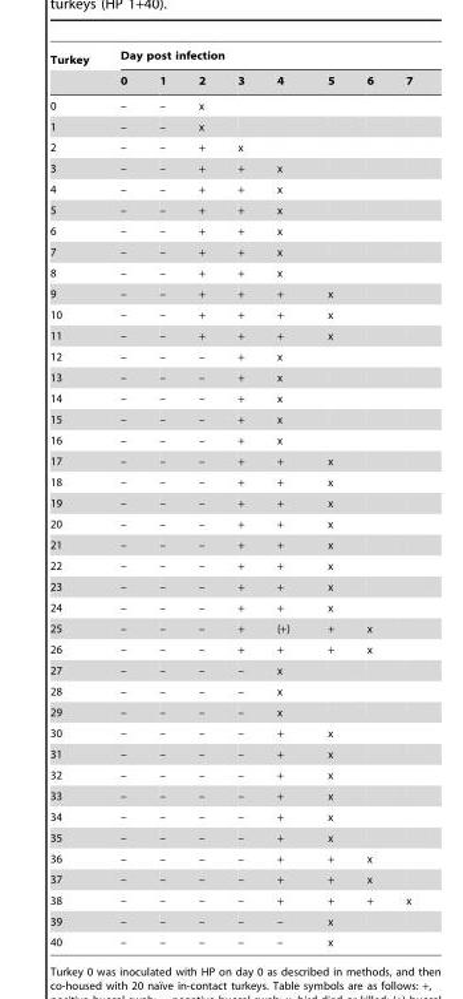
<table><thead><tr><td rowspan="2">Turkey</td><td colspan="8">Day post infection</td></tr><tr><td>0</td><td>1</td><td>2</td><td>3</td><td>4</td><td>5</td><td>6</td><td>7</td></tr></thead><tbody><tr><td>0</td><td>–</td><td>–</td><td>x</td><td></td><td></td><td></td><td></td><td></td></tr><tr><td>1</td><td>–</td><td>–</td><td>x</td><td></td><td></td><td></td><td></td><td></td></tr><tr><td>2</td><td>–</td><td>–</td><td>+</td><td>x</td><td></td><td></td><td></td><td></td></tr><tr><td>3</td><td>–</td><td>–</td><td>+</td><td>+</td><td>x</td><td></td><td></td><td></td></tr><tr><td>4</td><td>–</td><td>–</td><td>+</td><td>+</td><td>x</td><td></td><td></td><td></td></tr><tr><td>5</td><td>–</td><td>–</td><td>+</td><td>+</td><td>x</td><td></td><td></td><td></td></tr><tr><td>6</td><td>–</td><td>–</td><td>+</td><td>+</td><td>x</td><td></td><td></td><td></td></tr><tr><td>7</td><td>–</td><td>–</td><td>+</td><td>+</td><td>x</td><td></td><td></td><td></td></tr><tr><td>8</td><td>–</td><td>–</td><td>+</td><td>+</td><td>x</td><td></td><td></td><td></td></tr><tr><td>9</td><td>–</td><td>–</td><td>+</td><td>+</td><td>+</td><td>x</td><td></td><td></td></tr><tr><td>10</td><td>–</td><td>–</td><td>+</td><td>+</td><td>+</td><td>x</td><td></td><td></td></tr><tr><td>11</td><td>–</td><td>–</td><td>+</td><td>+</td><td>+</td><td>x</td><td></td><td></td></tr><tr><td>12</td><td>–</td><td>–</td><td>–</td><td>+</td><td>x</td><td></td><td></td><td></td></tr><tr><td>13</td><td>–</td><td>–</td><td>–</td><td>+</td><td>x</td><td></td><td></td><td></td></tr><tr><td>14</td><td>–</td><td>–</td><td>–</td><td>+</td><td>x</td><td></td><td></td><td></td></tr><tr><td>15</td><td>–</td><td>–</td><td>–</td><td>+</td><td>x</td><td></td><td></td><td></td></tr><tr><td>16</td><td>–</td><td>–</td><td>–</td><td>+</td><td>x</td><td></td><td></td><td></td></tr><tr><td>17</td><td>–</td><td>–</td><td>–</td><td>+</td><td>+</td><td>x</td><td></td><td></td></tr><tr><td>18</td><td>–</td><td>–</td><td>–</td><td>+</td><td>+</td><td>x</td><td></td><td></td></tr><tr><td>19</td><td>–</td><td>–</td><td>–</td><td>+</td><td>+</td><td>x</td><td></td><td></td></tr><tr><td>20</td><td>–</td><td>–</td><td>–</td><td>+</td><td>+</td><td>x</td><td></td><td></td></tr><tr><td>21</td><td>–</td><td>–</td><td>–</td><td>+</td><td>+</td><td>x</td><td></td><td></td></tr><tr><td>22</td><td>–</td><td>–</td><td>–</td><td>+</td><td>+</td><td>x</td><td></td><td></td></tr><tr><td>23</td><td>–</td><td>–</td><td>–</td><td>+</td><td>+</td><td>x</td><td></td><td></td></tr><tr><td>24</td><td>–</td><td>–</td><td>–</td><td>+</td><td>+</td><td>x</td><td></td><td></td></tr><tr><td>25</td><td>–</td><td>–</td><td>–</td><td>+</td><td>(+)</td><td>+</td><td>x</td><td></td></tr><tr><td>26</td><td>–</td><td>–</td><td>–</td><td>+</td><td>+</td><td>+</td><td>x</td><td></td></tr><tr><td>27</td><td>–</td><td>–</td><td>–</td><td>–</td><td>x</td><td></td><td></td><td></td></tr><tr><td>28</td><td>–</td><td>–</td><td>–</td><td>–</td><td>x</td><td></td><td></td><td></td></tr><tr><td>29</td><td>–</td><td>–</td><td>–</td><td>–</td><td>x</td><td></td><td></td><td></td></tr><tr><td>30</td><td>–</td><td>–</td><td>–</td><td>–</td><td>+</td><td>x</td><td></td><td></td></tr><tr><td>31</td><td>–</td><td>–</td><td>–</td><td>–</td><td>+</td><td>x</td><td></td><td></td></tr><tr><td>32</td><td>–</td><td>–</td><td>–</td><td>–</td><td>+</td><td>x</td><td></td><td></td></tr><tr><td>33</td><td>–</td><td>–</td><td>–</td><td>–</td><td>+</td><td>x</td><td></td><td></td></tr><tr><td>34</td><td>–</td><td>–</td><td>–</td><td>–</td><td>+</td><td>x</td><td></td><td></td></tr><tr><td>35</td><td>–</td><td>–</td><td>–</td><td>–</td><td>+</td><td>x</td><td></td><td></td></tr><tr><td>36</td><td>–</td><td>–</td><td>–</td><td>–</td><td>+</td><td>+</td><td>x</td><td></td></tr><tr><td>37</td><td>–</td><td>–</td><td>–</td><td>–</td><td>+</td><td>+</td><td>x</td><td></td></tr><tr><td>38</td><td>–</td><td>–</td><td>–</td><td>–</td><td>+</td><td>+</td><td>+</td><td>x</td></tr><tr><td>39</td><td>–</td><td>–</td><td>–</td><td>–</td><td>–</td><td>x</td><td></td><td></td></tr><tr><td>40</td><td>–</td><td>–</td><td>–</td><td>–</td><td>–</td><td>x</td><td></td><td></td></tr></tbody></table>